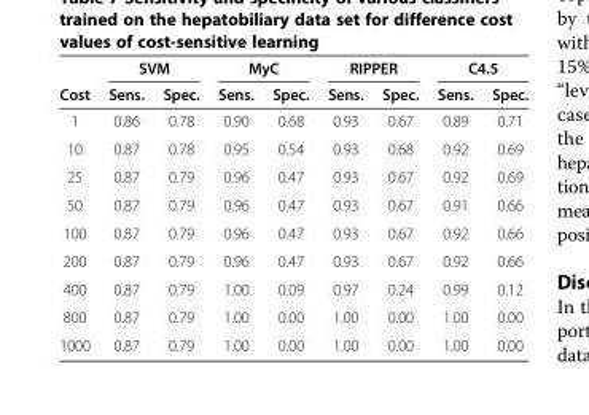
<table><thead><tr><td rowspan="2">Cost</td><td colspan="2">SVM</td><td colspan="2">MyC</td><td colspan="2">RIPPER</td><td colspan="2">C4.5</td></tr><tr><td>Sens.</td><td>Spec.</td><td>Sens.</td><td>Spec.</td><td>Sens.</td><td>Spec.</td><td>Sens.</td><td>Spec.</td></tr></thead><tbody><tr><td>1</td><td>0.86</td><td>0.78</td><td>0.90</td><td>0.68</td><td>0.93</td><td>0.67</td><td>0.89</td><td>0.71</td></tr><tr><td>10</td><td>0.87</td><td>0.78</td><td>0.95</td><td>0.54</td><td>0.93</td><td>0.68</td><td>0.92</td><td>0.69</td></tr><tr><td>25</td><td>0.87</td><td>0.79</td><td>0.96</td><td>0.47</td><td>0.93</td><td>0.67</td><td>0.92</td><td>0.69</td></tr><tr><td>50</td><td>0.87</td><td>0.79</td><td>0.96</td><td>0.47</td><td>0.93</td><td>0.67</td><td>0.91</td><td>0.66</td></tr><tr><td>100</td><td>0.87</td><td>0.79</td><td>0.96</td><td>0.47</td><td>0.93</td><td>0.67</td><td>0.92</td><td>0.66</td></tr><tr><td>200</td><td>0.87</td><td>0.79</td><td>0.96</td><td>0.47</td><td>0.93</td><td>0.67</td><td>0.92</td><td>0.66</td></tr><tr><td>400</td><td>0.87</td><td>0.79</td><td>1.00</td><td>0.09</td><td>0.97</td><td>0.24</td><td>0.99</td><td>0.12</td></tr><tr><td>800</td><td>0.87</td><td>0.79</td><td>1.00</td><td>0.00</td><td>1.00</td><td>0.00</td><td>1.00</td><td>0.00</td></tr><tr><td>1000</td><td>0.87</td><td>0.79</td><td>1.00</td><td>0.00</td><td>1.00</td><td>0.00</td><td>1.00</td><td>0.00</td></tr></tbody></table>